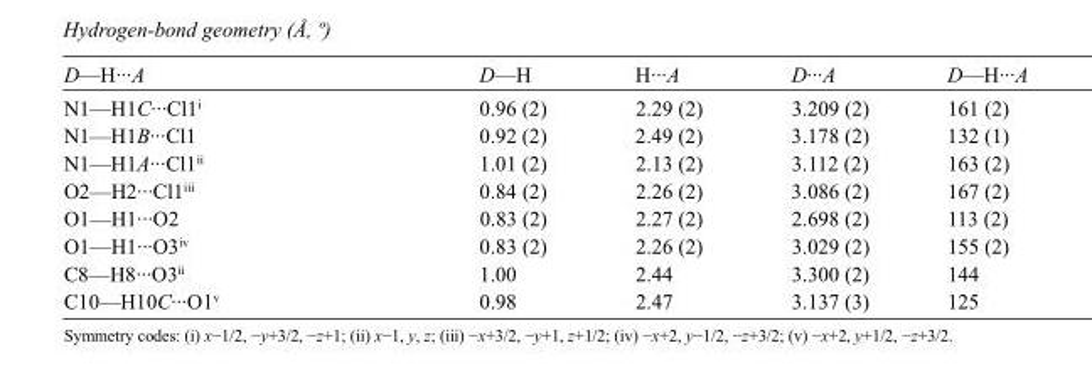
<table><tbody><tr><td>D—H···A</td><td>D—H</td><td>H···A</td><td>D···A</td><td>D—H···A</td></tr><tr><td>N1—H1C···Cl1<sup>i</sup></td><td>0.96 (2)</td><td>2.29 (2)</td><td>3.209 (2)</td><td>161 (2)</td></tr><tr><td>N1—H1B···Cl1</td><td>0.92 (2)</td><td>2.49 (2)</td><td>3.178 (2)</td><td>132 (1)</td></tr><tr><td>N1—H1A···Cl1<sup>ii</sup></td><td>1.01 (2)</td><td>2.13 (2)</td><td>3.112 (2)</td><td>163 (2)</td></tr><tr><td>O2—H2···Cl1<sup>iii</sup></td><td>0.84 (2)</td><td>2.26 (2)</td><td>3.086 (2)</td><td>167 (2)</td></tr><tr><td>O1—H1···O2</td><td>0.83 (2)</td><td>2.27 (2)</td><td>2.698 (2)</td><td>113 (2)</td></tr><tr><td>O1—H1···O3<sup>iv</sup></td><td>0.83 (2)</td><td>2.26 (2)</td><td>3.029 (2)</td><td>155 (2)</td></tr><tr><td>C8—H8···O3<sup>ii</sup></td><td>1.00</td><td>2.44</td><td>3.300 (2)</td><td>144</td></tr><tr><td>C10—H10C···O1<sup>v</sup></td><td>0.98</td><td>2.47</td><td>3.137 (3)</td><td>125</td></tr></tbody></table>